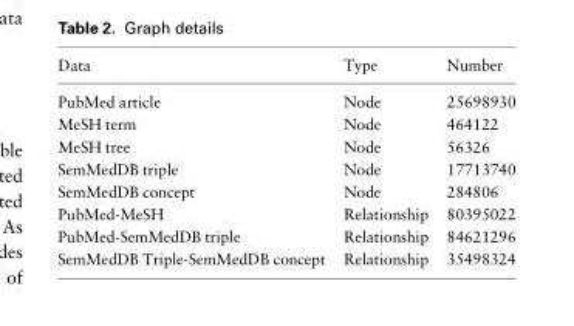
<table><thead><tr><td>Data</td><td>Type</td><td>Number</td></tr></thead><tbody><tr><td>PubMed article</td><td>Node</td><td>25698930</td></tr><tr><td>MeSH term</td><td>Node</td><td>464122</td></tr><tr><td>MeSH tree</td><td>Node</td><td>56326</td></tr><tr><td>SemMedDB triple</td><td>Node</td><td>17713740</td></tr><tr><td>SemMedDB concept</td><td>Node</td><td>284806</td></tr><tr><td>PubMed-MeSH</td><td>Relationship</td><td>80395022</td></tr><tr><td>PubMed-SemMedDB triple</td><td>Relationship</td><td>84621296</td></tr><tr><td>SemMedDB Triple-SemMedDB concept</td><td>Relationship</td><td>35498324</td></tr></tbody></table>